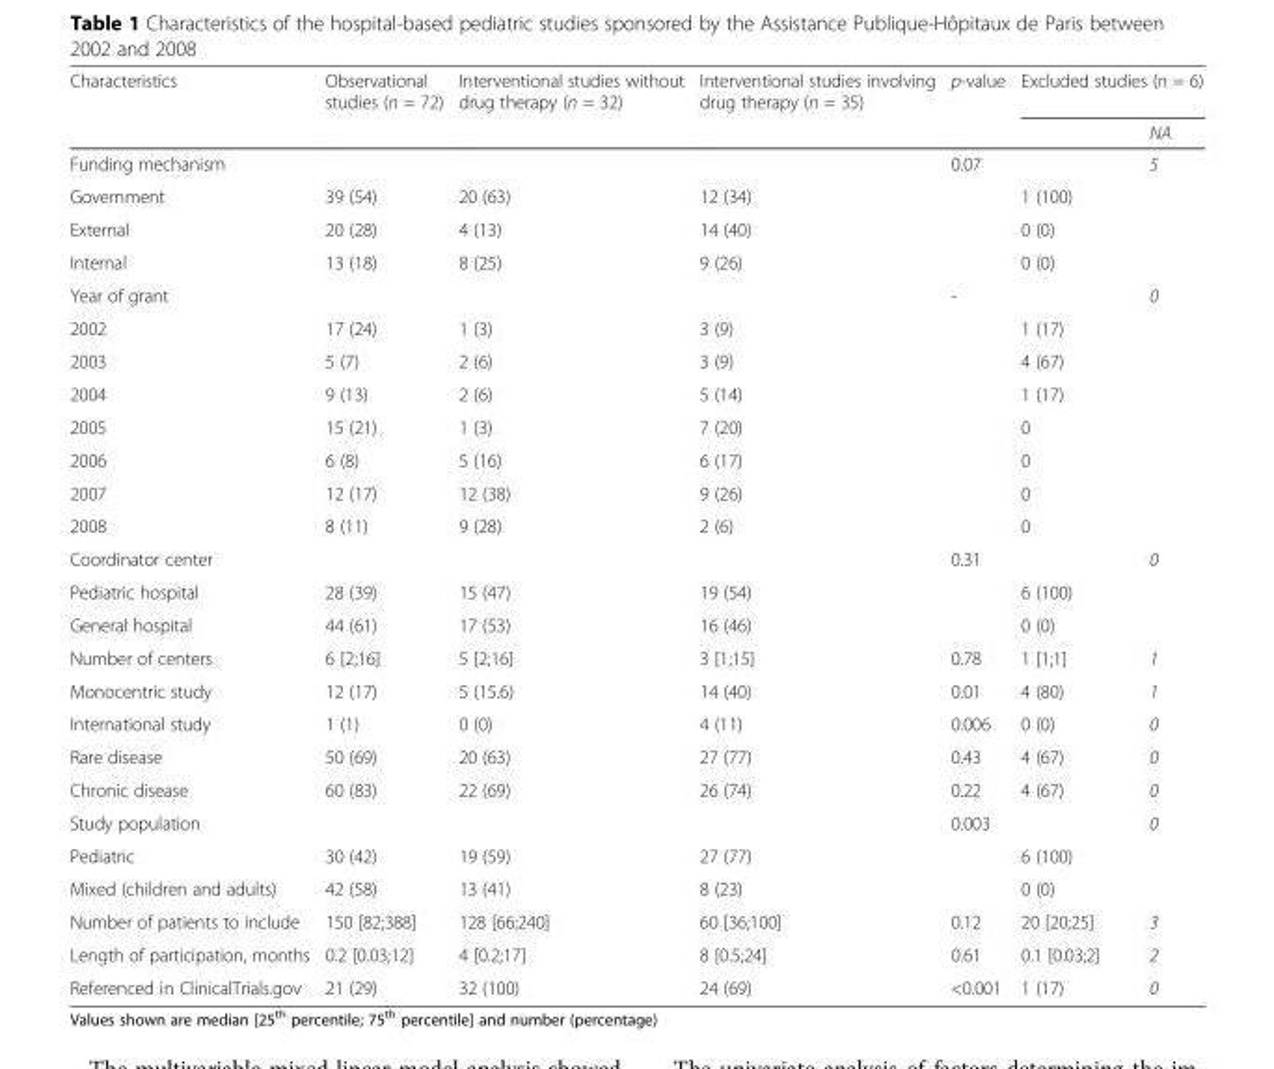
<table><thead><tr><td rowspan="2">Characteristics</td><td rowspan="2">Observational studies (n = 72)</td><td rowspan="2">Interventional studies without drug therapy (n = 32)</td><td rowspan="2">Interventional studies involving drug therapy (n = 35)</td><td rowspan="2">p-value</td><td colspan="2">Excluded studies (n = 6)</td></tr><tr><td></td><td>NA</td></tr></thead><tbody><tr><td>Funding mechanism</td><td></td><td></td><td></td><td>0.07</td><td></td><td>5</td></tr><tr><td>Government</td><td>39 (54)</td><td>20 (63)</td><td>12 (34)</td><td></td><td colspan="2">1 (100)</td></tr><tr><td>External</td><td>20 (28)</td><td>4 (13)</td><td>14 (40)</td><td></td><td colspan="2">0 (0)</td></tr><tr><td>Internal</td><td>13 (18)</td><td>8 (25)</td><td>9 (26)</td><td></td><td colspan="2">0 (0)</td></tr><tr><td>Year of grant</td><td></td><td></td><td></td><td>-</td><td></td><td>0</td></tr><tr><td>2002</td><td>17 (24)</td><td>1 (3)</td><td>3 (9)</td><td></td><td colspan="2">1 (17)</td></tr><tr><td>2003</td><td>5 (7)</td><td>2 (6)</td><td>3 (9)</td><td></td><td colspan="2">4 (67)</td></tr><tr><td>2004</td><td>9 (13)</td><td>2 (6)</td><td>5 (14)</td><td></td><td colspan="2">1 (17)</td></tr><tr><td>2005</td><td>15 (21)</td><td>1 (3)</td><td>7 (20)</td><td></td><td colspan="2">0</td></tr><tr><td>2006</td><td>6 (8)</td><td>5 (16)</td><td>6 (17)</td><td></td><td colspan="2">0</td></tr><tr><td>2007</td><td>12 (17)</td><td>12 (38)</td><td>9 (26)</td><td></td><td colspan="2">0</td></tr><tr><td>2008</td><td>8 (11)</td><td>9 (28)</td><td>2 (6)</td><td></td><td colspan="2">0</td></tr><tr><td>Coordinator center</td><td></td><td></td><td></td><td>0.31</td><td></td><td>0</td></tr><tr><td>Pediatric hospital</td><td>28 (39)</td><td>15 (47)</td><td>19 (54)</td><td></td><td colspan="2">6 (100)</td></tr><tr><td>General hospital</td><td>44 (61)</td><td>17 (53)</td><td>16 (46)</td><td></td><td colspan="2">0 (0)</td></tr><tr><td>Number of centers</td><td>6 [2;16]</td><td>5 [2;16]</td><td>3 [1;15]</td><td>0.78</td><td>1 [1;1]</td><td>1</td></tr><tr><td>Monocentric study</td><td>12 (17)</td><td>5 (15.6)</td><td>14 (40)</td><td>0.01</td><td>4 (80)</td><td>1</td></tr><tr><td>International study</td><td>1 (1)</td><td>0 (0)</td><td>4 (11)</td><td>0.006</td><td>0 (0)</td><td>0</td></tr><tr><td>Rare disease</td><td>50 (69)</td><td>20 (63)</td><td>27 (77)</td><td>0.43</td><td>4 (67)</td><td>0</td></tr><tr><td>Chronic disease</td><td>60 (83)</td><td>22 (69)</td><td>26 (74)</td><td>0.22</td><td>4 (67)</td><td>0</td></tr><tr><td>Study population</td><td></td><td></td><td></td><td>0.003</td><td></td><td>0</td></tr><tr><td>Pediatric</td><td>30 (42)</td><td>19 (59)</td><td>27 (77)</td><td></td><td colspan="2">6 (100)</td></tr><tr><td>Mixed (children and adults)</td><td>42 (58)</td><td>13 (41)</td><td>8 (23)</td><td></td><td colspan="2">0 (0)</td></tr><tr><td>Number of patients to include</td><td>150 [82;388]</td><td>128 [66;240]</td><td>60 [36;100]</td><td>0.12</td><td>20 [20;25]</td><td>3</td></tr><tr><td>Length of participation, months</td><td>0.2 [0.03;12]</td><td>4 [0.2;17]</td><td>8 [0.5;24]</td><td>0.61</td><td>0.1 [0.03;2]</td><td>2</td></tr><tr><td>Referenced in ClinicalTrials.gov</td><td>21 (29)</td><td>32 (100)</td><td>24 (69)</td><td>&lt;0.001</td><td>1 (17)</td><td>0</td></tr></tbody></table>